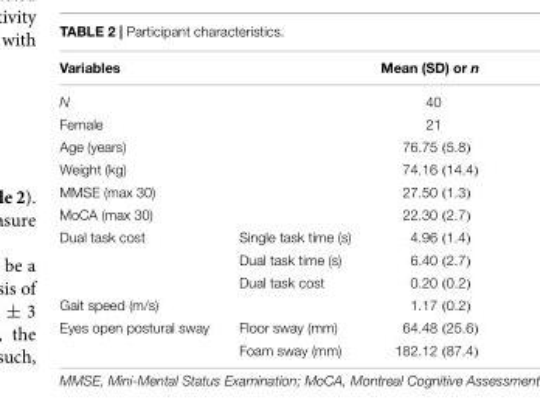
<table><thead><tr><td>Variables</td><td></td><td>Mean (SD) or n</td></tr></thead><tbody><tr><td>N</td><td></td><td>40</td></tr><tr><td>Female</td><td></td><td>21</td></tr><tr><td>Age (years)</td><td></td><td>76.75 (5.8)</td></tr><tr><td>Weight (kg)</td><td></td><td>74.16 (14.4)</td></tr><tr><td>MMSE (max 30)</td><td></td><td>27.50 (1.3)</td></tr><tr><td>MoCA (max 30)</td><td></td><td>22.30 (2.7)</td></tr><tr><td rowspan="3">Dual task cost</td><td>Single task time (s)</td><td>4.96 (1.4)</td></tr><tr><td>Dual task time (s)</td><td>6.40 (2.7)</td></tr><tr><td>Dual task cost</td><td>0.20 (0.2)</td></tr><tr><td>Gait speed (m/s)</td><td></td><td>1.17 (0.2)</td></tr><tr><td rowspan="2">Eyes open postural sway</td><td>Floor sway (mm)</td><td>64.48 (25.6)</td></tr><tr><td>Foam sway (mm)</td><td>182.12 (87.4)</td></tr></tbody></table>